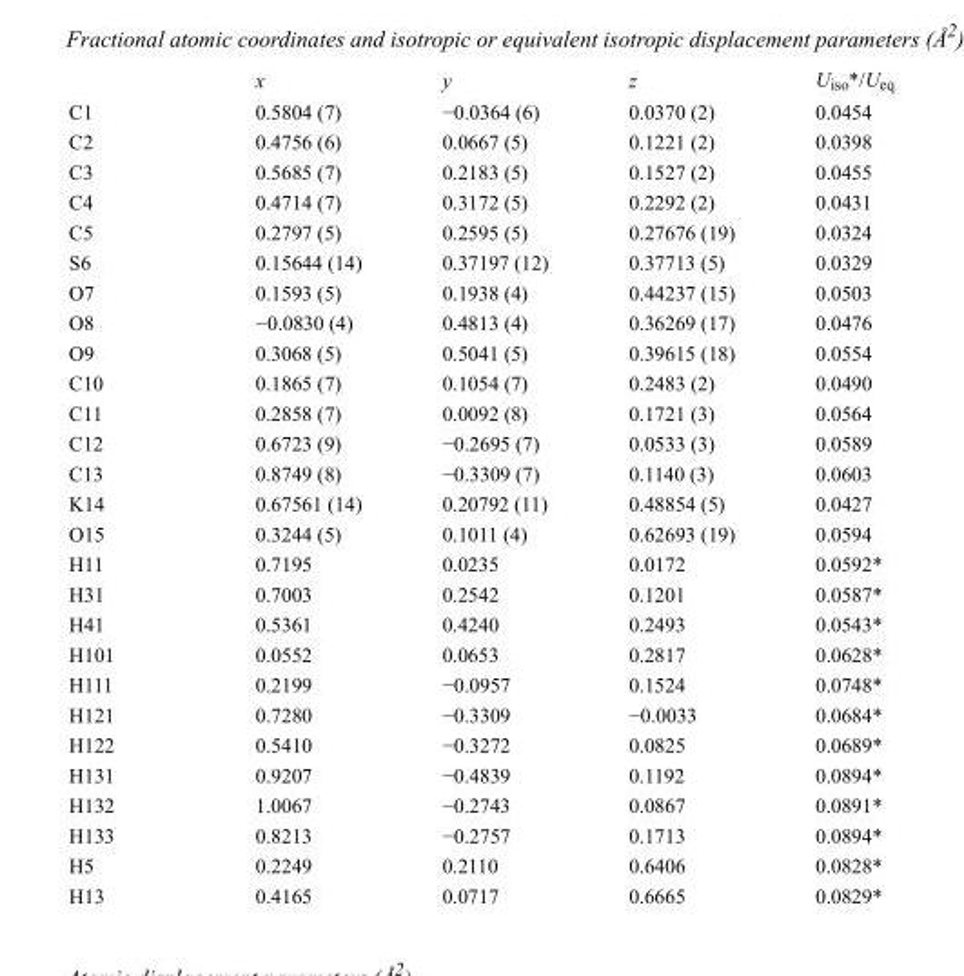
<table><thead><tr><td></td><td>x</td><td>y</td><td>z</td><td>U<sub>iso</sub>*/U<sub>eq</sub></td></tr></thead><tbody><tr><td>C1</td><td>0.5804 (7)</td><td>−0.0364 (6)</td><td>0.0370 (2)</td><td>0.0454</td></tr><tr><td>C2</td><td>0.4756 (6)</td><td>0.0667 (5)</td><td>0.1221 (2)</td><td>0.0398</td></tr><tr><td>C3</td><td>0.5685 (7)</td><td>0.2183 (5)</td><td>0.1527 (2)</td><td>0.0455</td></tr><tr><td>C4</td><td>0.4714 (7)</td><td>0.3172 (5)</td><td>0.2292 (2)</td><td>0.0431</td></tr><tr><td>C5</td><td>0.2797 (5)</td><td>0.2595 (5)</td><td>0.27676 (19)</td><td>0.0324</td></tr><tr><td>S6</td><td>0.15644 (14)</td><td>0.37197 (12)</td><td>0.37713 (5)</td><td>0.0329</td></tr><tr><td>O7</td><td>0.1593 (5)</td><td>0.1938 (4)</td><td>0.44237 (15)</td><td>0.0503</td></tr><tr><td>O8</td><td>−0.0830 (4)</td><td>0.4813 (4)</td><td>0.36269 (17)</td><td>0.0476</td></tr><tr><td>O9</td><td>0.3068 (5)</td><td>0.5041 (5)</td><td>0.39615 (18)</td><td>0.0554</td></tr><tr><td>C10</td><td>0.1865 (7)</td><td>0.1054 (7)</td><td>0.2483 (2)</td><td>0.0490</td></tr><tr><td>C11</td><td>0.2858 (7)</td><td>0.0092 (8)</td><td>0.1721 (3)</td><td>0.0564</td></tr><tr><td>C12</td><td>0.6723 (9)</td><td>−0.2695 (7)</td><td>0.0533 (3)</td><td>0.0589</td></tr><tr><td>C13</td><td>0.8749 (8)</td><td>−0.3309 (7)</td><td>0.1140 (3)</td><td>0.0603</td></tr><tr><td>K14</td><td>0.67561 (14)</td><td>0.20792 (11)</td><td>0.48854 (5)</td><td>0.0427</td></tr><tr><td>O15</td><td>0.3244 (5)</td><td>0.1011 (4)</td><td>0.62693 (19)</td><td>0.0594</td></tr><tr><td>H11</td><td>0.7195</td><td>0.0235</td><td>0.0172</td><td>0.0592*</td></tr><tr><td>H31</td><td>0.7003</td><td>0.2542</td><td>0.1201</td><td>0.0587*</td></tr><tr><td>H41</td><td>0.5361</td><td>0.4240</td><td>0.2493</td><td>0.0543*</td></tr><tr><td>H101</td><td>0.0552</td><td>0.0653</td><td>0.2817</td><td>0.0628*</td></tr><tr><td>H111</td><td>0.2199</td><td>−0.0957</td><td>0.1524</td><td>0.0748*</td></tr><tr><td>H121</td><td>0.7280</td><td>−0.3309</td><td>−0.0033</td><td>0.0684*</td></tr><tr><td>H122</td><td>0.5410</td><td>−0.3272</td><td>0.0825</td><td>0.0689*</td></tr><tr><td>H131</td><td>0.9207</td><td>−0.4839</td><td>0.1192</td><td>0.0894*</td></tr><tr><td>H132</td><td>1.0067</td><td>−0.2743</td><td>0.0867</td><td>0.0891*</td></tr><tr><td>H133</td><td>0.8213</td><td>−0.2757</td><td>0.1713</td><td>0.0894*</td></tr><tr><td>H5</td><td>0.2249</td><td>0.2110</td><td>0.6406</td><td>0.0828*</td></tr><tr><td>H13</td><td>0.4165</td><td>0.0717</td><td>0.6665</td><td>0.0829*</td></tr></tbody></table>